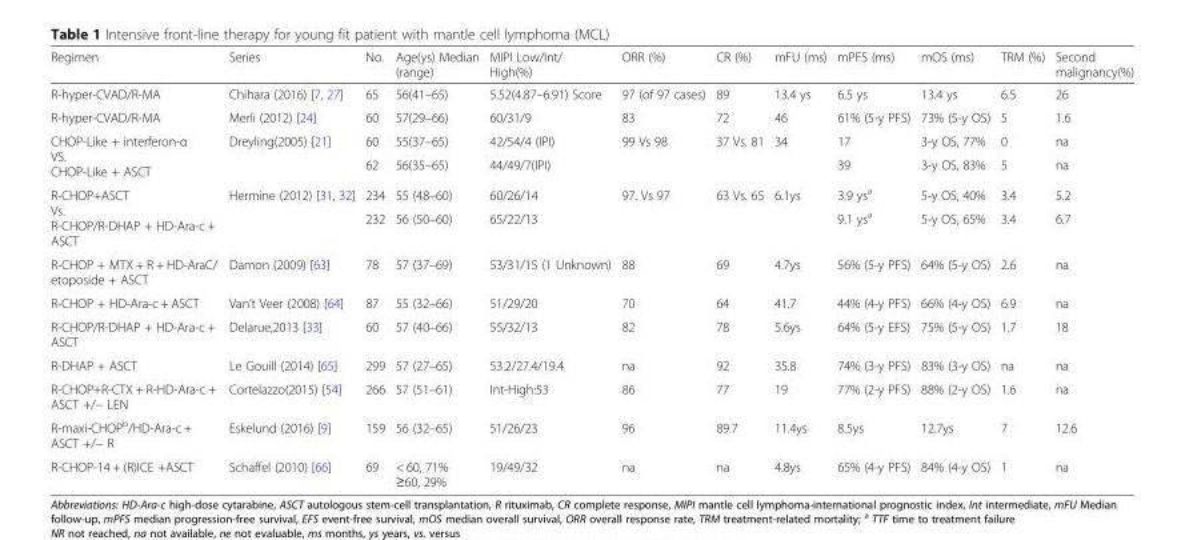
<table><thead><tr><td>Regimen</td><td>Series</td><td>No.</td><td>Age(ys) Median (range)</td><td>MIPI Low/Int/ High(%)</td><td>ORR (%)</td><td>CR (%)</td><td>mFU (ms)</td><td>mPFS (ms)</td><td>mOS (ms)</td><td>TRM (%)</td><td>Second malignancy(%)</td></tr></thead><tbody><tr><td>R-hyper-CVAD/R-MA</td><td>Chihara (2016) [7, 27]</td><td>65</td><td>56(41–65)</td><td>5.52(4.87–6.91) Score</td><td>97 (of 97 cases)</td><td>89</td><td>13.4 ys</td><td>6.5 ys</td><td>13.4 ys</td><td>6.5</td><td>26</td></tr><tr><td>R-hyper-CVAD/R-MA</td><td>Merli (2012) [24]</td><td>60</td><td>57(29–66)</td><td>60/31/9</td><td>83</td><td>72</td><td>46</td><td>61% (5-y PFS)</td><td>73% (5-y OS)</td><td>5</td><td>1.6</td></tr><tr><td rowspan="2">CHOP-Like + interferon-α VS. CHOP-Like + ASCT</td><td rowspan="2">Dreyling(2005) [21]</td><td>60</td><td>55(37–65)</td><td>42/54/4 (IPI)</td><td rowspan="2">99 Vs 98</td><td rowspan="2">37 Vs. 81</td><td rowspan="2">34</td><td>17</td><td>3-y OS, 77%</td><td>0</td><td>na</td></tr><tr><td>62</td><td>56(35–65)</td><td>44/49/7(IPI)</td><td>39</td><td>3-y OS, 83%</td><td>5</td><td>na</td></tr><tr><td rowspan="2">R-CHOP+ASCT Vs. R-CHOP/R-DHAP + HD-Ara-c + ASCT</td><td rowspan="2">Hermine (2012) [31, 32]</td><td>234</td><td>55 (48–60)</td><td>60/26/14</td><td rowspan="2">97. Vs 97</td><td rowspan="2">63 Vs. 65</td><td rowspan="2">6.1ys</td><td>3.9 ys<sup>a</sup></td><td>5-y OS, 40%</td><td>3.4</td><td>5.2</td></tr><tr><td>232</td><td>56 (50–60)</td><td>65/22/13</td><td>9.1 ys<sup>a</sup></td><td>5-y OS, 65%</td><td>3.4</td><td>6.7</td></tr><tr><td>R-CHOP + MTX + R + HD-AraC/ etoposide + ASCT</td><td>Damon (2009) [63]</td><td>78</td><td>57 (37–69)</td><td>53/31/15 (1 Unknown)</td><td>88</td><td>69</td><td>4.7ys</td><td>56% (5-y PFS)</td><td>64% (5-y OS)</td><td>2.6</td><td>na</td></tr><tr><td>R-CHOP + HD-Ara-c + ASCT</td><td>Van’t Veer (2008) [64]</td><td>87</td><td>55 (32–66)</td><td>51/29/20</td><td>70</td><td>64</td><td>41.7</td><td>44% (4-y PFS)</td><td>66% (4-y OS)</td><td>6.9</td><td>na</td></tr><tr><td>R-CHOP/R-DHAP + HD-Ara-c + ASCT</td><td>Delarue,2013 [33]</td><td>60</td><td>57 (40–66)</td><td>55/32/13</td><td>82</td><td>78</td><td>5.6ys</td><td>64% (5-y EFS)</td><td>75% (5-y OS)</td><td>1.7</td><td>18</td></tr><tr><td>R-DHAP + ASCT</td><td>Le Gouill (2014) [65]</td><td>299</td><td>57 (27–65)</td><td>53.2/27.4/19.4</td><td>na</td><td>92</td><td>35.8</td><td>74% (3-y PFS)</td><td>83% (3-y OS)</td><td>na</td><td>na</td></tr><tr><td>R-CHOP+R-CTX + R-HD-Ara-c + ASCT +/− LEN</td><td>Cortelazzo(2015) [54]</td><td>266</td><td>57 (51–61)</td><td>Int-High:53</td><td>86</td><td>77</td><td>19</td><td>77% (2-y PFS)</td><td>88% (2-y OS)</td><td>1.6</td><td>na</td></tr><tr><td>R-maxi-CHOP<sup>b</sup>/HD-Ara-c + ASCT +/− R</td><td>Eskelund (2016) [9]</td><td>159</td><td>56 (32–65)</td><td>51/26/23</td><td>96</td><td>89.7</td><td>11.4ys</td><td>8.5ys</td><td>12.7ys</td><td>7</td><td>12.6</td></tr><tr><td>R-CHOP-14 + (R)ICE +ASCT</td><td>Schaffel (2010) [66]</td><td>69</td><td>&lt; 60, 71% ≥60, 29%</td><td>19/49/32</td><td>na</td><td>na</td><td>4.8ys</td><td>65% (4-y PFS)</td><td>84% (4-y OS)</td><td>1</td><td>na</td></tr></tbody></table>